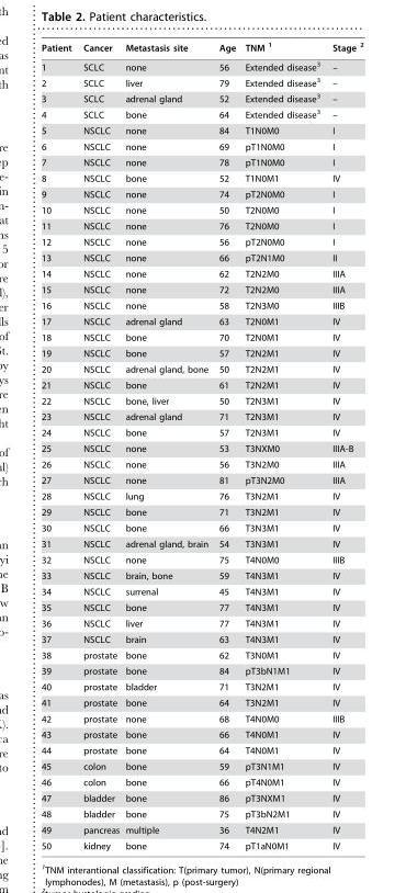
<table><thead><tr><td>Patient</td><td>Cancer</td><td>Metastasis site</td><td>Age</td><td>TNM 1</td><td>Stage 2</td></tr></thead><tbody><tr><td>1</td><td>SCLC</td><td>none</td><td>56</td><td>Extended disease<sup>3</sup></td><td>–</td></tr><tr><td>2</td><td>SCLC</td><td>liver</td><td>79</td><td>Extended disease<sup>3</sup></td><td>–</td></tr><tr><td>3</td><td>SCLC</td><td>adrenal gland</td><td>52</td><td>Extended disease<sup>3</sup></td><td>–</td></tr><tr><td>4</td><td>SCLC</td><td>bone</td><td>64</td><td>Extended disease<sup>3</sup></td><td>–</td></tr><tr><td>5</td><td>NSCLC</td><td>none</td><td>84</td><td>T1N0M0</td><td>I</td></tr><tr><td>6</td><td>NSCLC</td><td>none</td><td>69</td><td>pT1N0M0</td><td>I</td></tr><tr><td>7</td><td>NSCLC</td><td>none</td><td>78</td><td>pT1N0M0</td><td>I</td></tr><tr><td>8</td><td>NSCLC</td><td>bone</td><td>52</td><td>T1N0M1</td><td>IV</td></tr><tr><td>9</td><td>NSCLC</td><td>none</td><td>74</td><td>pT2N0M0</td><td>I</td></tr><tr><td>10</td><td>NSCLC</td><td>none</td><td>50</td><td>T2N0M0</td><td>I</td></tr><tr><td>11</td><td>NSCLC</td><td>none</td><td>76</td><td>T2N0M0</td><td>I</td></tr><tr><td>12</td><td>NSCLC</td><td>none</td><td>56</td><td>pT2N0M0</td><td>I</td></tr><tr><td>13</td><td>NSCLC</td><td>none</td><td>66</td><td>pT2N1M0</td><td>II</td></tr><tr><td>14</td><td>NSCLC</td><td>none</td><td>62</td><td>T2N2M0</td><td>IIIA</td></tr><tr><td>15</td><td>NSCLC</td><td>none</td><td>72</td><td>T2N2M0</td><td>IIIA</td></tr><tr><td>16</td><td>NSCLC</td><td>none</td><td>58</td><td>T2N3M0</td><td>IIIB</td></tr><tr><td>17</td><td>NSCLC</td><td>adrenal gland</td><td>63</td><td>T2N0M1</td><td>IV</td></tr><tr><td>18</td><td>NSCLC</td><td>bone</td><td>70</td><td>T2N0M1</td><td>IV</td></tr><tr><td>19</td><td>NSCLC</td><td>bone</td><td>57</td><td>T2N2M1</td><td>IV</td></tr><tr><td>20</td><td>NSCLC</td><td>adrenal gland, bone</td><td>50</td><td>T2N2M1</td><td>IV</td></tr><tr><td>21</td><td>NSCLC</td><td>bone</td><td>61</td><td>T2N2M1</td><td>IV</td></tr><tr><td>22</td><td>NSCLC</td><td>bone, liver</td><td>50</td><td>T2N3M1</td><td>IV</td></tr><tr><td>23</td><td>NSCLC</td><td>adrenal gland</td><td>71</td><td>T2N3M1</td><td>IV</td></tr><tr><td>24</td><td>NSCLC</td><td>bone</td><td>57</td><td>T2N3M1</td><td>IV</td></tr><tr><td>25</td><td>NSCLC</td><td>none</td><td>53</td><td>T3NXM0</td><td>IIIA-B</td></tr><tr><td>26</td><td>NSCLC</td><td>none</td><td>56</td><td>T3N2M0</td><td>IIIA</td></tr><tr><td>27</td><td>NSCLC</td><td>none</td><td>81</td><td>pT3N2M0</td><td>IIIA</td></tr><tr><td>28</td><td>NSCLC</td><td>lung</td><td>76</td><td>T3N2M1</td><td>IV</td></tr><tr><td>29</td><td>NSCLC</td><td>bone</td><td>71</td><td>T3N2M1</td><td>IV</td></tr><tr><td>30</td><td>NSCLC</td><td>bone</td><td>66</td><td>T3N3M1</td><td>IV</td></tr><tr><td>31</td><td>NSCLC</td><td>adrenal gland, brain</td><td>54</td><td>T3N3M1</td><td>IV</td></tr><tr><td>32</td><td>NSCLC</td><td>none</td><td>75</td><td>T4N0M0</td><td>IIIB</td></tr><tr><td>33</td><td>NSCLC</td><td>brain, bone</td><td>59</td><td>T4N3M1</td><td>IV</td></tr><tr><td>34</td><td>NSCLC</td><td>surrenal</td><td>45</td><td>T4N3M1</td><td>IV</td></tr><tr><td>35</td><td>NSCLC</td><td>bone</td><td>77</td><td>T4N3M1</td><td>IV</td></tr><tr><td>36</td><td>NSCLC</td><td>liver</td><td>77</td><td>T4N3M1</td><td>IV</td></tr><tr><td>37</td><td>NSCLC</td><td>brain</td><td>63</td><td>T4N3M1</td><td>IV</td></tr><tr><td>38</td><td>prostate</td><td>bone</td><td>62</td><td>T3N0M1</td><td>IV</td></tr><tr><td>39</td><td>prostate</td><td>bone</td><td>84</td><td>pT3bN1M1</td><td>IV</td></tr><tr><td>40</td><td>prostate</td><td>bladder</td><td>71</td><td>T3N2M1</td><td>IV</td></tr><tr><td>41</td><td>prostate</td><td>bone</td><td>64</td><td>T3N2M1</td><td>IV</td></tr><tr><td>42</td><td>prostate</td><td>none</td><td>68</td><td>T4N0M0</td><td>IIIB</td></tr><tr><td>43</td><td>prostate</td><td>bone</td><td>66</td><td>T4N0M1</td><td>IV</td></tr><tr><td>44</td><td>prostate</td><td>bone</td><td>64</td><td>T4N0M1</td><td>IV</td></tr><tr><td>45</td><td>colon</td><td>bone</td><td>59</td><td>pT3N1M1</td><td>IV</td></tr><tr><td>46</td><td>colon</td><td>bone</td><td>66</td><td>pT4N0M1</td><td>IV</td></tr><tr><td>47</td><td>bladder</td><td>bone</td><td>86</td><td>pT3NXM1</td><td>IV</td></tr><tr><td>48</td><td>bladder</td><td>bone</td><td>75</td><td>pT3bN2M1</td><td>IV</td></tr><tr><td>49</td><td>pancreas</td><td>multiple</td><td>36</td><td>T4N2M1</td><td>IV</td></tr><tr><td>50</td><td>kidney</td><td>bone</td><td>74</td><td>pT1aN0M1</td><td>IV</td></tr></tbody></table>